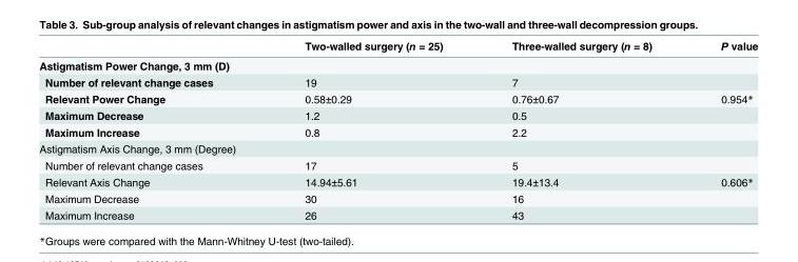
<table><thead><tr><td></td><td>Two-walled surgery (n = 25)</td><td>Three-walled surgery (n = 8)</td><td>P value</td></tr></thead><tbody><tr><td colspan="4">Astigmatism Power Change, 3 mm (D)</td></tr><tr><td>Number of relevant change cases</td><td>19</td><td>7</td><td></td></tr><tr><td>Relevant Power Change</td><td>0.58±0.29</td><td>0.76±0.67</td><td>0.954*</td></tr><tr><td>Maximum Decrease</td><td>1.2</td><td>0.5</td><td></td></tr><tr><td>Maximum Increase</td><td>0.8</td><td>2.2</td><td></td></tr><tr><td colspan="4">Astigmatism Axis Change, 3 mm (Degree)</td></tr><tr><td>Number of relevant change cases</td><td>17</td><td>5</td><td></td></tr><tr><td>Relevant Axis Change</td><td>14.94±5.61</td><td>19.4±13.4</td><td>0.606*</td></tr><tr><td>Maximum Decrease</td><td>30</td><td>16</td><td></td></tr><tr><td>Maximum Increase</td><td>26</td><td>43</td><td></td></tr></tbody></table>